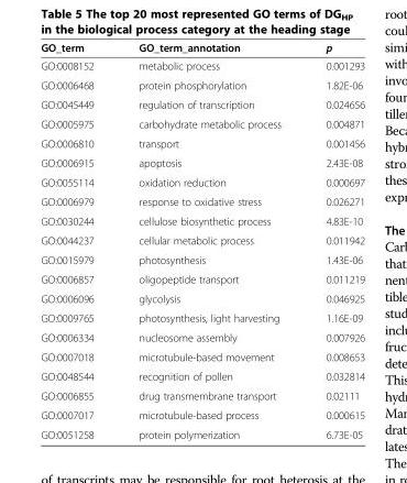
<table><thead><tr><td>GO_term</td><td>GO_term_annotation</td><td>p</td></tr></thead><tbody><tr><td>GO:0008152</td><td>metabolic process</td><td>0.001293</td></tr><tr><td>GO:0006468</td><td>protein phosphorylation</td><td>1.82E-06</td></tr><tr><td>GO:0045449</td><td>regulation of transcription</td><td>0.024656</td></tr><tr><td>GO:0005975</td><td>carbohydrate metabolic process</td><td>0.004871</td></tr><tr><td>GO:0006810</td><td>transport</td><td>0.001456</td></tr><tr><td>GO:0006915</td><td>apoptosis</td><td>2.43E-08</td></tr><tr><td>GO:0055114</td><td>oxidation reduction</td><td>0.000697</td></tr><tr><td>GO:0006979</td><td>response to oxidative stress</td><td>0.026271</td></tr><tr><td>GO:0030244</td><td>cellulose biosynthetic process</td><td>4.83E-10</td></tr><tr><td>GO:0044237</td><td>cellular metabolic process</td><td>0.011942</td></tr><tr><td>GO:0015979</td><td>photosynthesis</td><td>1.43E-06</td></tr><tr><td>GO:0006857</td><td>oligopeptide transport</td><td>0.011219</td></tr><tr><td>GO:0006096</td><td>glycolysis</td><td>0.046925</td></tr><tr><td>GO:0009765</td><td>photosynthesis, light harvesting</td><td>1.16E-09</td></tr><tr><td>GO:0006334</td><td>nucleosome assembly</td><td>0.007926</td></tr><tr><td>GO:0007018</td><td>microtubule-based movement</td><td>0.008653</td></tr><tr><td>GO:0048544</td><td>recognition of pollen</td><td>0.032814</td></tr><tr><td>GO:0006855</td><td>drug transmembrane transport</td><td>0.02111</td></tr><tr><td>GO:0007017</td><td>microtubule-based process</td><td>0.000615</td></tr><tr><td>GO:0051258</td><td>protein polymerization</td><td>6.73E-05</td></tr></tbody></table>